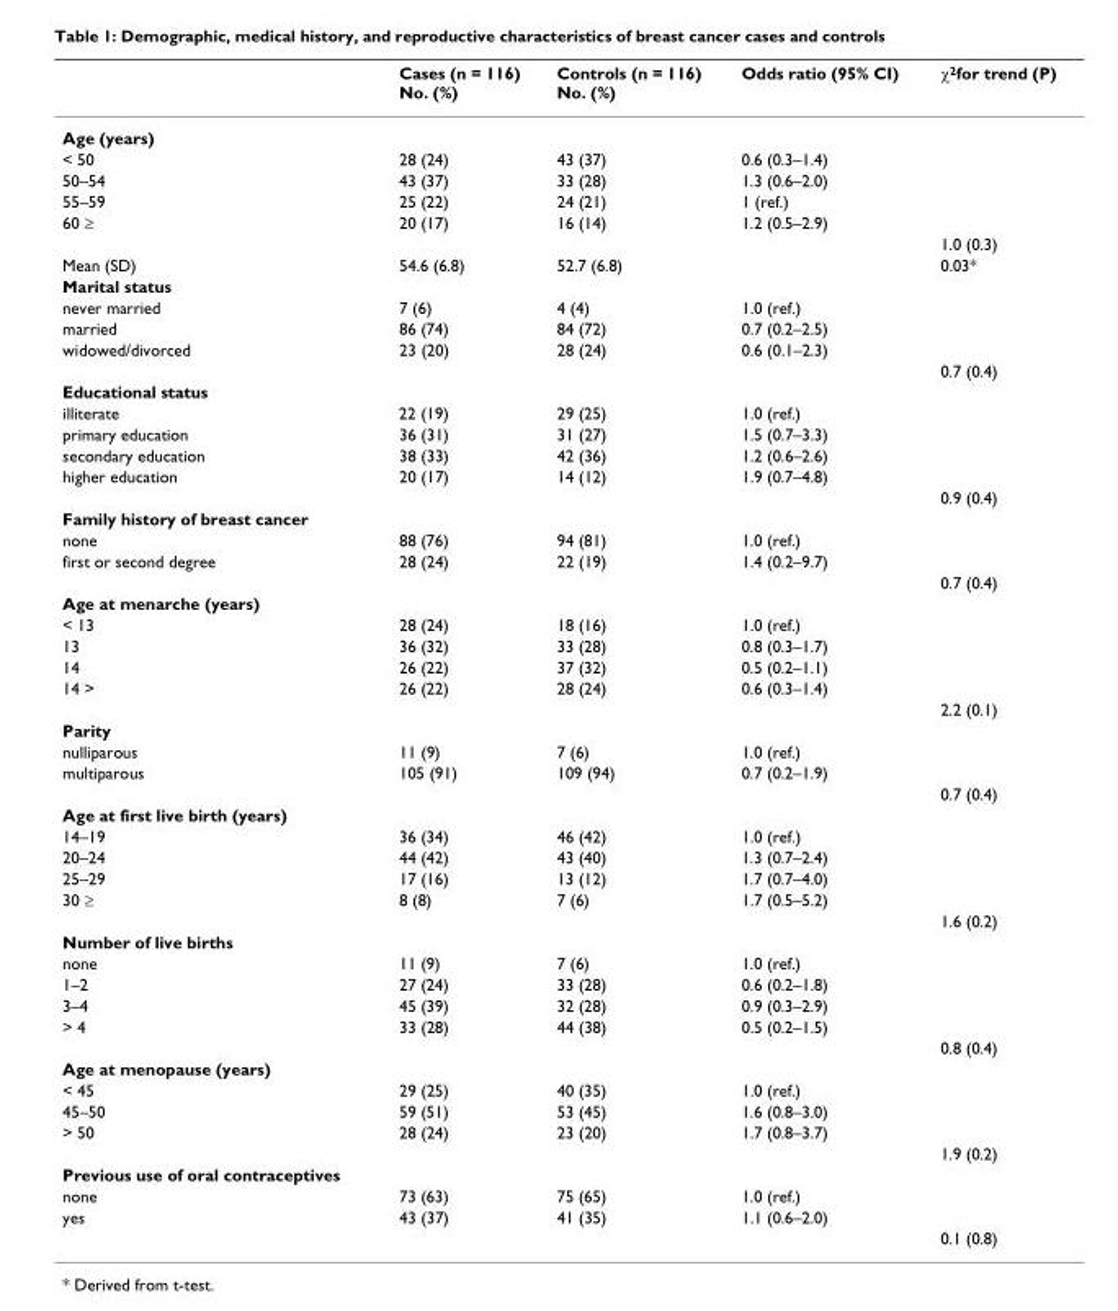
<table><thead><tr><td></td><td>Cases (n = 116) No. (%)</td><td>Controls (n = 116) No. (%)</td><td>Odds ratio (95% CI)</td><td>χ<sup>2</sup>for trend (P)</td></tr></thead><tbody><tr><td colspan="5">Age (years)</td></tr><tr><td>&lt; 50</td><td>28 (24)</td><td>43 (37)</td><td>0.6 (0.3–1.4)</td><td></td></tr><tr><td>50–54</td><td>43 (37)</td><td>33 (28)</td><td>1.3 (0.6–2.0)</td><td></td></tr><tr><td>55–59</td><td>25 (22)</td><td>24 (21)</td><td>1 (ref.)</td><td></td></tr><tr><td rowspan="2">60 ≥</td><td>20 (17)</td><td>16 (14)</td><td>1.2 (0.5–2.9)</td><td></td></tr><tr><td></td><td></td><td></td><td>1.0 (0.3)</td></tr><tr><td>Mean (SD)</td><td>54.6 (6.8)</td><td>52.7 (6.8)</td><td></td><td>0.03*</td></tr><tr><td colspan="5">Marital status</td></tr><tr><td>never married</td><td>7 (6)</td><td>4 (4)</td><td>1.0 (ref.)</td><td></td></tr><tr><td>married</td><td>86 (74)</td><td>84 (72)</td><td>0.7 (0.2–2.5)</td><td></td></tr><tr><td rowspan="2">widowed/divorced</td><td>23 (20)</td><td>28 (24)</td><td>0.6 (0.1–2.3)</td><td></td></tr><tr><td></td><td></td><td></td><td>0.7 (0.4)</td></tr><tr><td colspan="5">Educational status</td></tr><tr><td>illiterate</td><td>22 (19)</td><td>29 (25)</td><td>1.0 (ref.)</td><td></td></tr><tr><td>primary education</td><td>36 (31)</td><td>31 (27)</td><td>1.5 (0.7–3.3)</td><td></td></tr><tr><td>secondary education</td><td>38 (33)</td><td>42 (36)</td><td>1.2 (0.6–2.6)</td><td></td></tr><tr><td rowspan="2">higher education</td><td>20 (17)</td><td>14 (12)</td><td>1.9 (0.7–4.8)</td><td></td></tr><tr><td></td><td></td><td></td><td>0.9 (0.4)</td></tr><tr><td colspan="5">Family history of breast cancer</td></tr><tr><td>none</td><td>88 (76)</td><td>94 (81)</td><td>1.0 (ref.)</td><td></td></tr><tr><td rowspan="2">first or second degree</td><td>28 (24)</td><td>22 (19)</td><td>1.4 (0.2–9.7)</td><td></td></tr><tr><td></td><td></td><td></td><td>0.7 (0.4)</td></tr><tr><td colspan="5">Age at menarche (years)</td></tr><tr><td>&lt; 13</td><td>28 (24)</td><td>18 (16)</td><td>1.0 (ref.)</td><td></td></tr><tr><td>13</td><td>36 (32)</td><td>33 (28)</td><td>0.8 (0.3–1.7)</td><td></td></tr><tr><td>14</td><td>26 (22)</td><td>37 (32)</td><td>0.5 (0.2–1.1)</td><td></td></tr><tr><td rowspan="2">14 &gt;</td><td>26 (22)</td><td>28 (24)</td><td>0.6 (0.3–1.4)</td><td></td></tr><tr><td></td><td></td><td></td><td>2.2 (0.1)</td></tr><tr><td colspan="5">Parity</td></tr><tr><td>nulliparous</td><td>11 (9)</td><td>7 (6)</td><td>1.0 (ref.)</td><td></td></tr><tr><td rowspan="2">multiparous</td><td>105 (91)</td><td>109 (94)</td><td>0.7 (0.2–1.9)</td><td></td></tr><tr><td></td><td></td><td></td><td>0.7 (0.4)</td></tr><tr><td colspan="5">Age at first live birth (years)</td></tr><tr><td>14–19</td><td>36 (34)</td><td>46 (42)</td><td>1.0 (ref.)</td><td></td></tr><tr><td>20–24</td><td>44 (42)</td><td>43 (40)</td><td>1.3 (0.7–2.4)</td><td></td></tr><tr><td>25–29</td><td>17 (16)</td><td>13 (12)</td><td>1.7 (0.7–4.0)</td><td></td></tr><tr><td rowspan="2">30 ≥</td><td>8 (8)</td><td>7 (6)</td><td>1.7 (0.5–5.2)</td><td></td></tr><tr><td></td><td></td><td></td><td>1.6 (0.2)</td></tr><tr><td colspan="5">Number of live births</td></tr><tr><td>none</td><td>11 (9)</td><td>7 (6)</td><td>1.0 (ref.)</td><td></td></tr><tr><td>1–2</td><td>27 (24)</td><td>33 (28)</td><td>0.6 (0.2–1.8)</td><td></td></tr><tr><td>3–4</td><td>45 (39)</td><td>32 (28)</td><td>0.9 (0.3–2.9)</td><td></td></tr><tr><td rowspan="2">&gt; 4</td><td>33 (28)</td><td>44 (38)</td><td>0.5 (0.2–1.5)</td><td></td></tr><tr><td></td><td></td><td></td><td>0.8 (0.4)</td></tr><tr><td colspan="5">Age at menopause (years)</td></tr><tr><td>&lt; 45</td><td>29 (25)</td><td>40 (35)</td><td>1.0 (ref.)</td><td></td></tr><tr><td>45–50</td><td>59 (51)</td><td>53 (45)</td><td>1.6 (0.8–3.0)</td><td></td></tr><tr><td rowspan="2">&gt; 50</td><td>28 (24)</td><td>23 (20)</td><td>1.7 (0.8–3.7)</td><td></td></tr><tr><td></td><td></td><td></td><td>1.9 (0.2)</td></tr><tr><td colspan="5">Previous use of oral contraceptives</td></tr><tr><td>none</td><td>73 (63)</td><td>75 (65)</td><td>1.0 (ref.)</td><td></td></tr><tr><td rowspan="2">yes</td><td>43 (37)</td><td>41 (35)</td><td>1.1 (0.6–2.0)</td><td></td></tr><tr><td></td><td></td><td></td><td>0.1 (0.8)</td></tr></tbody></table>